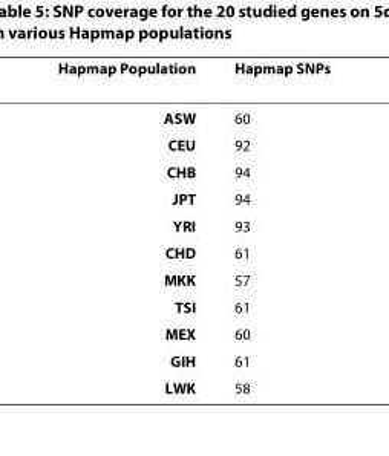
<table><thead><tr><td>Hapmap Population</td><td>Hapmap SNPs</td></tr></thead><tbody><tr><td>ASW</td><td>60</td></tr><tr><td>CEU</td><td>92</td></tr><tr><td>CHB</td><td>94</td></tr><tr><td>JPT</td><td>94</td></tr><tr><td>YRI</td><td>93</td></tr><tr><td>CHD</td><td>61</td></tr><tr><td>MKK</td><td>57</td></tr><tr><td>TSI</td><td>61</td></tr><tr><td>MEX</td><td>60</td></tr><tr><td>GIH</td><td>61</td></tr><tr><td>LWK</td><td>58</td></tr></tbody></table>